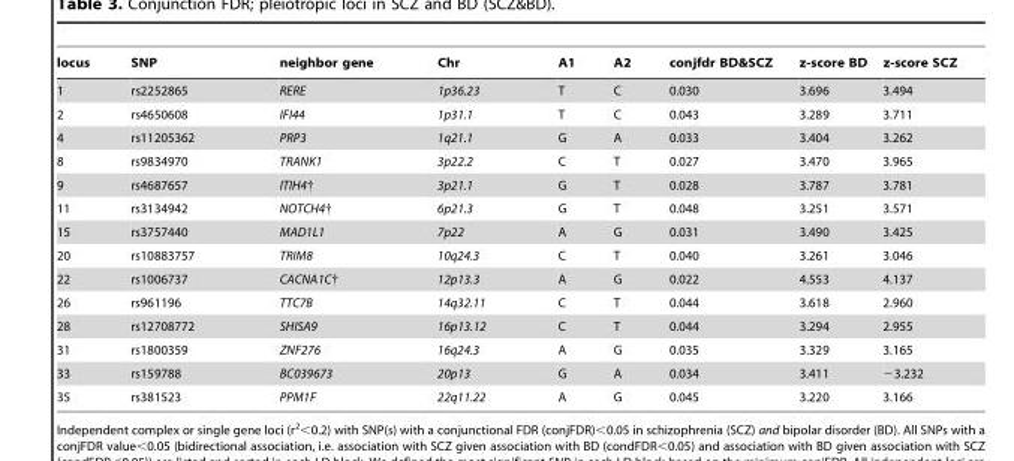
<table><thead><tr><td>locus</td><td>SNP</td><td>neighbor gene</td><td>Chr</td><td>A1</td><td>A2</td><td>conjfdr BD&amp;SCZ</td><td>z-score BD</td><td>z-score SCZ</td></tr></thead><tbody><tr><td>1</td><td>rs2252865</td><td>RERE</td><td>1p36.23</td><td>T</td><td>C</td><td>0.030</td><td>3.696</td><td>3.494</td></tr><tr><td>2</td><td>rs4650608</td><td>IFI44</td><td>1p31.1</td><td>T</td><td>C</td><td>0.043</td><td>3.289</td><td>3.711</td></tr><tr><td>4</td><td>rs11205362</td><td>PRP3</td><td>1q21.1</td><td>G</td><td>A</td><td>0.033</td><td>3.404</td><td>3.262</td></tr><tr><td>8</td><td>rs9834970</td><td>TRANK1</td><td>3p22.2</td><td>C</td><td>T</td><td>0.027</td><td>3.470</td><td>3.965</td></tr><tr><td>9</td><td>rs4687657</td><td>ITIH4†</td><td>3p21.1</td><td>G</td><td>T</td><td>0.028</td><td>3.787</td><td>3.781</td></tr><tr><td>11</td><td>rs3134942</td><td>NOTCH4†</td><td>6p21.3</td><td>G</td><td>T</td><td>0.048</td><td>3.251</td><td>3.571</td></tr><tr><td>15</td><td>rs3757440</td><td>MAD1L1</td><td>7p22</td><td>A</td><td>G</td><td>0.031</td><td>3.490</td><td>3.425</td></tr><tr><td>20</td><td>rs10883757</td><td>TRIM8</td><td>10q24.3</td><td>C</td><td>T</td><td>0.040</td><td>3.261</td><td>3.046</td></tr><tr><td>22</td><td>rs1006737</td><td>CACNA1C†</td><td>12p13.3</td><td>A</td><td>G</td><td>0.022</td><td>4.553</td><td>4.137</td></tr><tr><td>26</td><td>rs961196</td><td>TTC7B</td><td>14q32.11</td><td>C</td><td>T</td><td>0.044</td><td>3.618</td><td>2.960</td></tr><tr><td>28</td><td>rs12708772</td><td>SHISA9</td><td>16p13.12</td><td>C</td><td>T</td><td>0.044</td><td>3.294</td><td>2.955</td></tr><tr><td>31</td><td>rs1800359</td><td>ZNF276</td><td>16q24.3</td><td>A</td><td>G</td><td>0.035</td><td>3.329</td><td>3.165</td></tr><tr><td>33</td><td>rs159788</td><td>BC039673</td><td>20p13</td><td>G</td><td>A</td><td>0.034</td><td>3.411</td><td>−3.232</td></tr><tr><td>35</td><td>rs381523</td><td>PPM1F</td><td>22q11.22</td><td>A</td><td>G</td><td>0.045</td><td>3.220</td><td>3.166</td></tr></tbody></table>